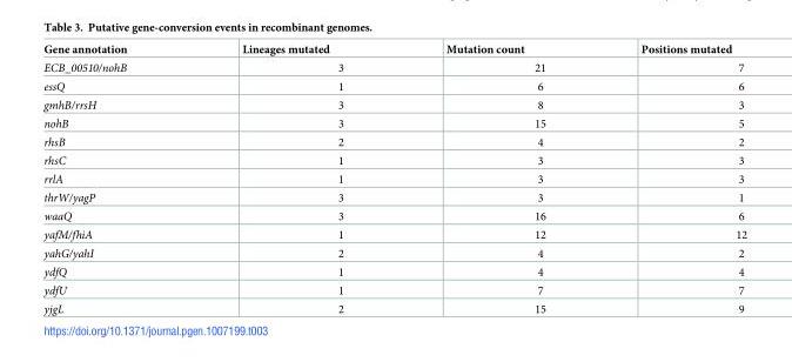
<table><thead><tr><td>Gene annotation</td><td>Lineages mutated</td><td>Mutation count</td><td>Positions mutated</td></tr></thead><tbody><tr><td>ECB_00510/nohB</td><td>3</td><td>21</td><td>7</td></tr><tr><td>essQ</td><td>1</td><td>6</td><td>6</td></tr><tr><td>gmhB/rrsH</td><td>3</td><td>8</td><td>3</td></tr><tr><td>nohB</td><td>3</td><td>15</td><td>5</td></tr><tr><td>rhsB</td><td>2</td><td>4</td><td>2</td></tr><tr><td>rhsC</td><td>1</td><td>3</td><td>3</td></tr><tr><td>rrlA</td><td>1</td><td>3</td><td>3</td></tr><tr><td>thrW/yagP</td><td>3</td><td>3</td><td>1</td></tr><tr><td>waaQ</td><td>3</td><td>16</td><td>6</td></tr><tr><td>yafM/fhiA</td><td>1</td><td>12</td><td>12</td></tr><tr><td>yahG/yahI</td><td>2</td><td>4</td><td>2</td></tr><tr><td>ydfQ</td><td>1</td><td>4</td><td>4</td></tr><tr><td>ydfU</td><td>1</td><td>7</td><td>7</td></tr><tr><td>yjgL</td><td>2</td><td>15</td><td>9</td></tr></tbody></table>